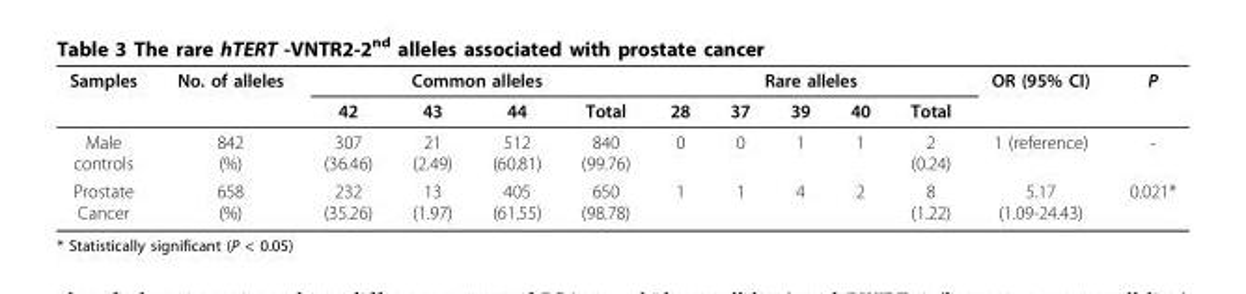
<table><thead><tr><td rowspan="2">Samples</td><td rowspan="2">No. of alleles</td><td colspan="4">Common alleles</td><td colspan="5">Rare alleles</td><td rowspan="2">OR (95% CI)</td><td rowspan="2">P</td></tr><tr><td>42</td><td>43</td><td>44</td><td>Total</td><td>28</td><td>37</td><td>39</td><td>40</td><td>Total</td></tr></thead><tbody><tr><td>Male controls</td><td>842 (%)</td><td>307 (36.46)</td><td>21 (2.49)</td><td>512 (60.81)</td><td>840 (99.76)</td><td>0</td><td>0</td><td>1</td><td>1</td><td>2 (0.24)</td><td>1 (reference)</td><td>-</td></tr><tr><td>Prostate Cancer</td><td>658 (%)</td><td>232 (35.26)</td><td>13 (1.97)</td><td>405 (61.55)</td><td>650 (98.78)</td><td>1</td><td>1</td><td>4</td><td>2</td><td>8 (1.22)</td><td>5.17 (1.09-24.43)</td><td>0.021*</td></tr></tbody></table>